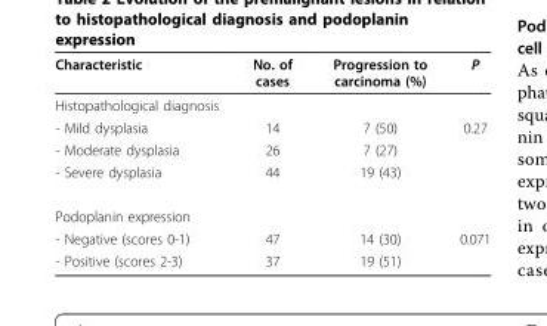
<table><thead><tr><td>Characteristic</td><td>No. of cases</td><td>Progression to carcinoma (%)</td><td>P</td></tr></thead><tbody><tr><td colspan="4">Histopathological diagnosis</td></tr><tr><td>- Mild dysplasia</td><td>14</td><td>7 (50)</td><td>0.27</td></tr><tr><td>- Moderate dysplasia</td><td>26</td><td>7 (27)</td><td></td></tr><tr><td>- Severe dysplasia</td><td>44</td><td>19 (43)</td><td></td></tr><tr><td colspan="4">Podoplanin expression</td></tr><tr><td>- Negative (scores 0-1)</td><td>47</td><td>14 (30)</td><td>0.071</td></tr><tr><td>- Positive (scores 2-3)</td><td>37</td><td>19 (51)</td><td></td></tr></tbody></table>